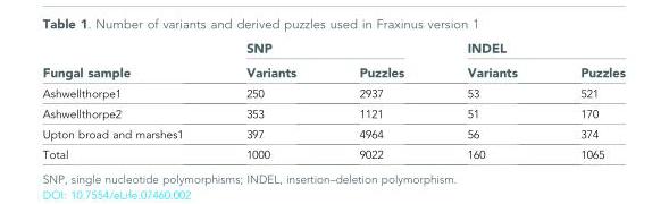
<table><thead><tr><td rowspan="2">Fungal sample</td><td colspan="2">SNP</td><td colspan="2">INDEL</td></tr><tr><td>Variants</td><td>Puzzles</td><td>Variants</td><td>Puzzles</td></tr></thead><tbody><tr><td>Ashwellthorpe1</td><td>250</td><td>2937</td><td>53</td><td>521</td></tr><tr><td>Ashwellthorpe2</td><td>353</td><td>1121</td><td>51</td><td>170</td></tr><tr><td>Upton broad and marshes1</td><td>397</td><td>4964</td><td>56</td><td>374</td></tr><tr><td>Total</td><td>1000</td><td>9022</td><td>160</td><td>1065</td></tr></tbody></table>